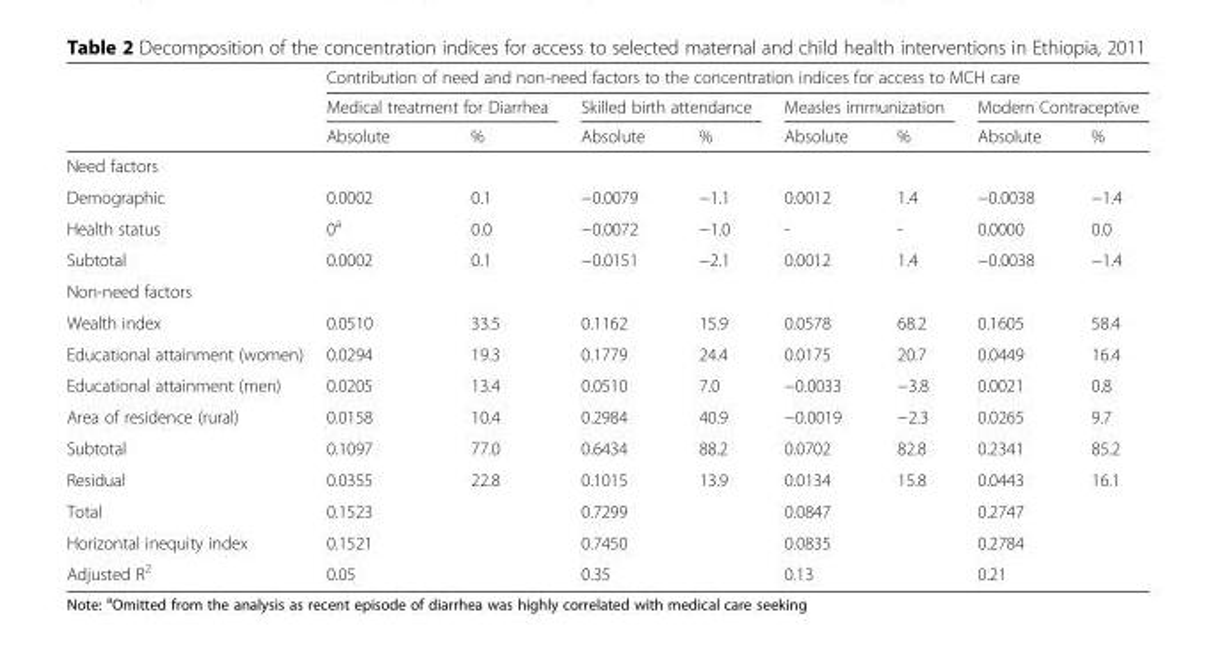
<table><thead><tr><td rowspan="3"></td><td colspan="8">Contribution of need and non-need factors to the concentration indices for access to MCH care</td></tr><tr><td colspan="2">Medical treatment for Diarrhea</td><td colspan="2">Skilled birth attendance</td><td colspan="2">Measles immunization</td><td colspan="2">Modern Contraceptive</td></tr><tr><td>Absolute</td><td>%</td><td>Absolute</td><td>%</td><td>Absolute</td><td>%</td><td>Absolute</td><td>%</td></tr></thead><tbody><tr><td colspan="9">Need factors</td></tr><tr><td>Demographic</td><td>0.0002</td><td>0.1</td><td>−0.0079</td><td>−1.1</td><td>0.0012</td><td>1.4</td><td>−0.0038</td><td>−1.4</td></tr><tr><td>Health status</td><td>0<sup>a</sup></td><td>0.0</td><td>−0.0072</td><td>−1.0</td><td>-</td><td>-</td><td>0.0000</td><td>0.0</td></tr><tr><td>Subtotal</td><td>0.0002</td><td>0.1</td><td>−0.0151</td><td>−2.1</td><td>0.0012</td><td>1.4</td><td>−0.0038</td><td>−1.4</td></tr><tr><td colspan="9">Non-need factors</td></tr><tr><td>Wealth index</td><td>0.0510</td><td>33.5</td><td>0.1162</td><td>15.9</td><td>0.0578</td><td>68.2</td><td>0.1605</td><td>58.4</td></tr><tr><td>Educational attainment (women)</td><td>0.0294</td><td>19.3</td><td>0.1779</td><td>24.4</td><td>0.0175</td><td>20.7</td><td>0.0449</td><td>16.4</td></tr><tr><td>Educational attainment (men)</td><td>0.0205</td><td>13.4</td><td>0.0510</td><td>7.0</td><td>−0.0033</td><td>−3.8</td><td>0.0021</td><td>0.8</td></tr><tr><td>Area of residence (rural)</td><td>0.0158</td><td>10.4</td><td>0.2984</td><td>40.9</td><td>−0.0019</td><td>−2.3</td><td>0.0265</td><td>9.7</td></tr><tr><td>Subtotal</td><td>0.1097</td><td>77.0</td><td>0.6434</td><td>88.2</td><td>0.0702</td><td>82.8</td><td>0.2341</td><td>85.2</td></tr><tr><td>Residual</td><td>0.0355</td><td>22.8</td><td>0.1015</td><td>13.9</td><td>0.0134</td><td>15.8</td><td>0.0443</td><td>16.1</td></tr><tr><td>Total</td><td>0.1523</td><td></td><td>0.7299</td><td></td><td>0.0847</td><td></td><td>0.2747</td><td></td></tr><tr><td>Horizontal inequity index</td><td>0.1521</td><td></td><td>0.7450</td><td></td><td>0.0835</td><td></td><td>0.2784</td><td></td></tr><tr><td>Adjusted R<sup>2</sup></td><td>0.05</td><td></td><td>0.35</td><td></td><td>0.13</td><td></td><td>0.21</td><td></td></tr></tbody></table>